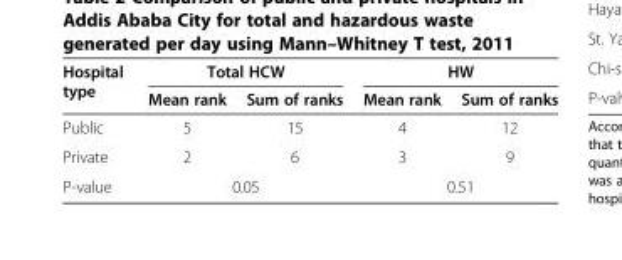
<table><thead><tr><td rowspan="2">Hospital type</td><td colspan="2">Total HCW</td><td colspan="2">HW</td></tr><tr><td>Mean rank</td><td>Sum of ranks</td><td>Mean rank</td><td>Sum of ranks</td></tr></thead><tbody><tr><td>Public</td><td>5</td><td>15</td><td>4</td><td>12</td></tr><tr><td>Private</td><td>2</td><td>6</td><td>3</td><td>9</td></tr><tr><td>P-value</td><td colspan="2">0.05</td><td colspan="2">0.51</td></tr></tbody></table>